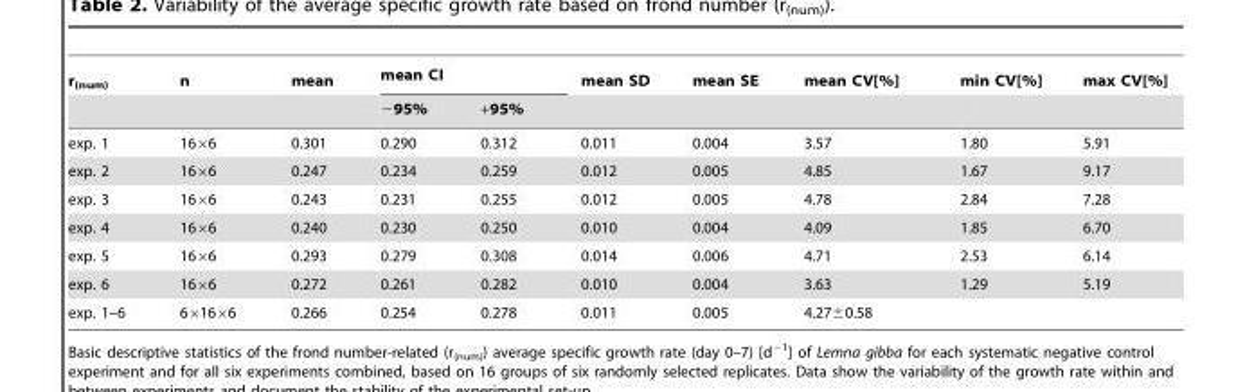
<table><thead><tr><td rowspan="2">r<sub>(num)</sub></td><td rowspan="2">n</td><td rowspan="2">mean</td><td colspan="2">mean CI</td><td rowspan="2">mean SD</td><td rowspan="2">mean SE</td><td rowspan="2">mean CV[%]</td><td rowspan="2">min CV[%]</td><td rowspan="2">max CV[%]</td></tr><tr><td>−95%</td><td>+95%</td></tr></thead><tbody><tr><td>exp. 1</td><td>16×6</td><td>0.301</td><td>0.290</td><td>0.312</td><td>0.011</td><td>0.004</td><td>3.57</td><td>1.80</td><td>5.91</td></tr><tr><td>exp. 2</td><td>16×6</td><td>0.247</td><td>0.234</td><td>0.259</td><td>0.012</td><td>0.005</td><td>4.85</td><td>1.67</td><td>9.17</td></tr><tr><td>exp. 3</td><td>16×6</td><td>0.243</td><td>0.231</td><td>0.255</td><td>0.012</td><td>0.005</td><td>4.78</td><td>2.84</td><td>7.28</td></tr><tr><td>exp. 4</td><td>16×6</td><td>0.240</td><td>0.230</td><td>0.250</td><td>0.010</td><td>0.004</td><td>4.09</td><td>1.85</td><td>6.70</td></tr><tr><td>exp. 5</td><td>16×6</td><td>0.293</td><td>0.279</td><td>0.308</td><td>0.014</td><td>0.006</td><td>4.71</td><td>2.53</td><td>6.14</td></tr><tr><td>exp. 6</td><td>16×6</td><td>0.272</td><td>0.261</td><td>0.282</td><td>0.010</td><td>0.004</td><td>3.63</td><td>1.29</td><td>5.19</td></tr><tr><td>exp. 1–6</td><td>6×16×6</td><td>0.266</td><td>0.254</td><td>0.278</td><td>0.011</td><td>0.005</td><td>4.27±0.58</td><td></td><td></td></tr></tbody></table>